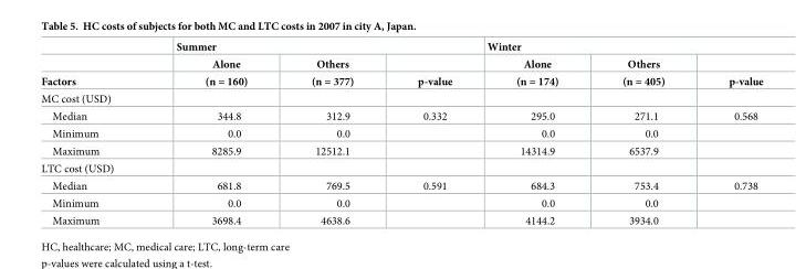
<table><thead><tr><td rowspan="3">Factors</td><td colspan="3">Summer</td><td colspan="3">Winter</td></tr><tr><td rowspan="2">Alone (n = 160)</td><td rowspan="2">Others (n = 377)</td><td rowspan="2">p-value</td><td rowspan="2">Alone (n = 174)</td><td rowspan="2">Others (n = 405)</td><td rowspan="2">p-value</td></tr><tr></tr></thead><tbody><tr><td colspan="7">MC cost (USD)</td></tr><tr><td>Median</td><td>344.8</td><td>312.9</td><td>0.332</td><td>295.0</td><td>271.1</td><td>0.568</td></tr><tr><td>Minimum</td><td>0.0</td><td>0.0</td><td></td><td>0.0</td><td>0.0</td><td></td></tr><tr><td>Maximum</td><td>8285.9</td><td>12512.1</td><td></td><td>14314.9</td><td>6537.9</td><td></td></tr><tr><td colspan="7">LTC cost (USD)</td></tr><tr><td>Median</td><td>681.8</td><td>769.5</td><td>0.591</td><td>684.3</td><td>753.4</td><td>0.738</td></tr><tr><td>Minimum</td><td>0.0</td><td>0.0</td><td></td><td>0.0</td><td>0.0</td><td></td></tr><tr><td>Maximum</td><td>3698.4</td><td>4638.6</td><td></td><td>4144.2</td><td>3934.0</td><td></td></tr></tbody></table>